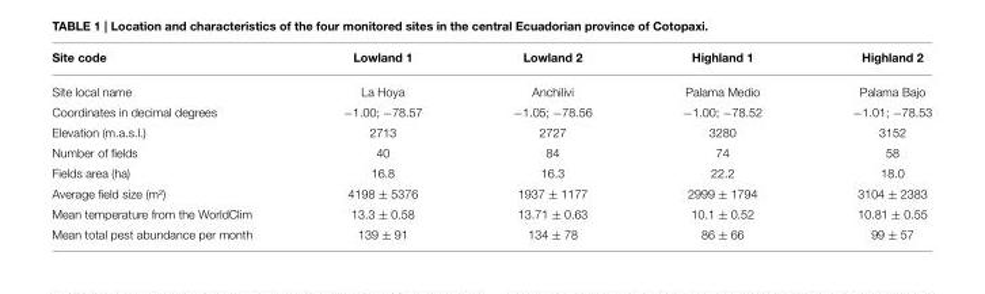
<table><thead><tr><td>Site code</td><td>Lowland 1</td><td>Lowland 2</td><td>Highland 1</td><td>Highland 2</td></tr></thead><tbody><tr><td>Site local name</td><td>La Hoya</td><td>Anchilivi</td><td>Palama Medio</td><td>Palama Bajo</td></tr><tr><td>Coordinates in decimal degrees</td><td>−1.00; −78.57</td><td>−1.05; −78.56</td><td>−1.00; −78.52</td><td>−1.01; −78.53</td></tr><tr><td>Elevation (m.a.s.l.)</td><td>2713</td><td>2727</td><td>3280</td><td>3152</td></tr><tr><td>Number of fields</td><td>40</td><td>84</td><td>74</td><td>58</td></tr><tr><td>Fields area (ha)</td><td>16.8</td><td>16.3</td><td>22.2</td><td>18.0</td></tr><tr><td>Average field size (m²)</td><td>4198 ± 5376</td><td>1937 ± 1177</td><td>2999 ± 1794</td><td>3104 ± 2383</td></tr><tr><td>Mean temperature from the WorldClim</td><td>13.3 ± 0.58</td><td>13.71 ± 0.63</td><td>10.1 ± 0.52</td><td>10.81 ± 0.55</td></tr><tr><td>Mean total pest abundance per month</td><td>139 ± 91</td><td>134 ± 78</td><td>86 ± 66</td><td>99 ± 57</td></tr></tbody></table>